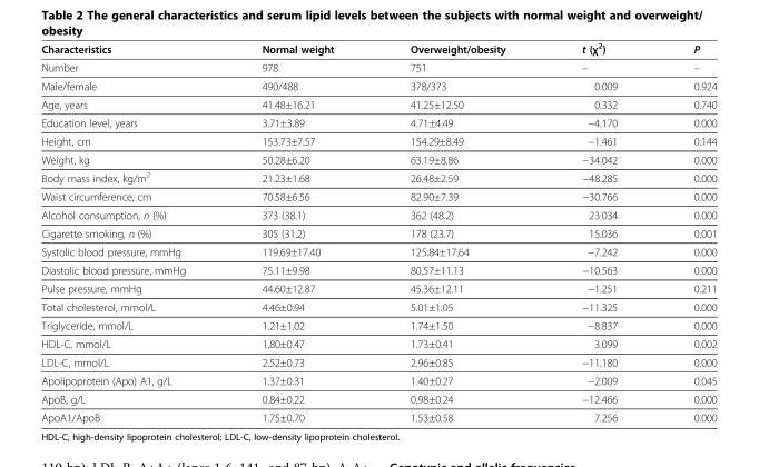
<table><thead><tr><td>Characteristics</td><td>Normal weight</td><td>Overweight/obesity</td><td>t (χ<sup>2</sup>)</td><td>P</td></tr></thead><tbody><tr><td>Number</td><td>978</td><td>751</td><td>–</td><td>–</td></tr><tr><td>Male/female</td><td>490/488</td><td>378/373</td><td>0.009</td><td>0.924</td></tr><tr><td>Age, years</td><td>41.48±16.21</td><td>41.25±12.50</td><td>0.332</td><td>0.740</td></tr><tr><td>Education level, years</td><td>3.71±3.89</td><td>4.71±4.49</td><td>−4.170</td><td>0.000</td></tr><tr><td>Height, cm</td><td>153.73±7.57</td><td>154.29±8.49</td><td>−1.461</td><td>0.144</td></tr><tr><td>Weight, kg</td><td>50.28±6.20</td><td>63.19±8.86</td><td>−34.042</td><td>0.000</td></tr><tr><td>Body mass index, kg/m<sup>2</sup></td><td>21.23±1.68</td><td>26.48±2.59</td><td>−48.285</td><td>0.000</td></tr><tr><td>Waist circumference, cm</td><td>70.58±6.56</td><td>82.90±7.39</td><td>−30.766</td><td>0.000</td></tr><tr><td>Alcohol consumption, n (%)</td><td>373 (38.1)</td><td>362 (48.2)</td><td>23.034</td><td>0.000</td></tr><tr><td>Cigarette smoking, n (%)</td><td>305 (31.2)</td><td>178 (23.7)</td><td>15.036</td><td>0.001</td></tr><tr><td>Systolic blood pressure, mmHg</td><td>119.69±17.40</td><td>125.84±17.64</td><td>−7.242</td><td>0.000</td></tr><tr><td>Diastolic blood pressure, mmHg</td><td>75.11±9.98</td><td>80.57±11.13</td><td>−10.563</td><td>0.000</td></tr><tr><td>Pulse pressure, mmHg</td><td>44.60±12.87</td><td>45.36±12.11</td><td>−1.251</td><td>0.211</td></tr><tr><td>Total cholesterol, mmol/L</td><td>4.46±0.94</td><td>5.01±1.05</td><td>−11.325</td><td>0.000</td></tr><tr><td>Triglyceride, mmol/L</td><td>1.21±1.02</td><td>1.74±1.50</td><td>−8.837</td><td>0.000</td></tr><tr><td>HDL-C, mmol/L</td><td>1.80±0.47</td><td>1.73±0.41</td><td>3.099</td><td>0.002</td></tr><tr><td>LDL-C, mmol/L</td><td>2.52±0.73</td><td>2.96±0.85</td><td>−11.180</td><td>0.000</td></tr><tr><td>Apolipoprotein (Apo) A1, g/L</td><td>1.37±0.31</td><td>1.40±0.27</td><td>−2.009</td><td>0.045</td></tr><tr><td>ApoB, g/L</td><td>0.84±0.22</td><td>0.98±0.24</td><td>−12.466</td><td>0.000</td></tr><tr><td>ApoA1/ApoB</td><td>1.75±0.70</td><td>1.53±0.58</td><td>7.256</td><td>0.000</td></tr></tbody></table>